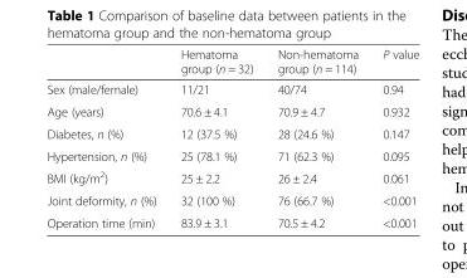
<table><thead><tr><td></td><td>Hematoma group (n = 32)</td><td>Non-hematoma group (n = 114)</td><td>P value</td></tr></thead><tbody><tr><td>Sex (male/female)</td><td>11/21</td><td>40/74</td><td>0.94</td></tr><tr><td>Age (years)</td><td>70.6 ± 4.1</td><td>70.9 ± 4.7</td><td>0.932</td></tr><tr><td>Diabetes, n (%)</td><td>12 (37.5 %)</td><td>28 (24.6 %)</td><td>0.147</td></tr><tr><td>Hypertension, n (%)</td><td>25 (78.1 %)</td><td>71 (62.3 %)</td><td>0.095</td></tr><tr><td>BMI (kg/m<sup>2</sup>)</td><td>25 ± 2.2</td><td>26 ± 2.4</td><td>0.061</td></tr><tr><td>Joint deformity, n (%)</td><td>32 (100 %)</td><td>76 (66.7 %)</td><td>&lt;0.001</td></tr><tr><td>Operation time (min)</td><td>83.9 ± 3.1</td><td>70.5 ± 4.2</td><td>&lt;0.001</td></tr></tbody></table>